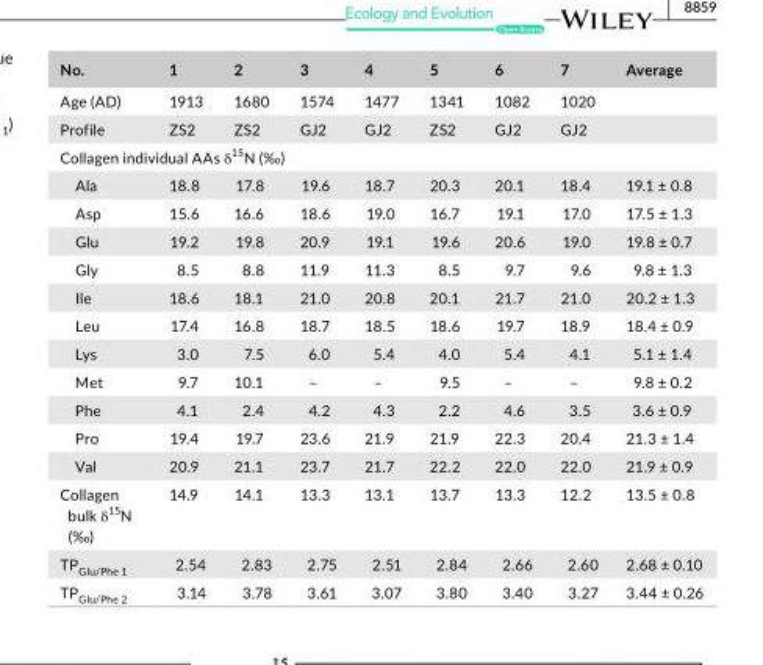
<table><thead><tr><td>No.</td><td>1</td><td>2</td><td>3</td><td>4</td><td>5</td><td>6</td><td>7</td><td>Average</td></tr></thead><tbody><tr><td>Age (AD)</td><td>1913</td><td>1680</td><td>1574</td><td>1477</td><td>1341</td><td>1082</td><td>1020</td><td></td></tr><tr><td>Profile</td><td>ZS2</td><td>ZS2</td><td>GJ2</td><td>GJ2</td><td>ZS2</td><td>GJ2</td><td>GJ2</td><td></td></tr><tr><td colspan="9">Collagen individual AAs δ<sup>15</sup>N (‰)</td></tr><tr><td>Ala</td><td>18.8</td><td>17.8</td><td>19.6</td><td>18.7</td><td>20.3</td><td>20.1</td><td>18.4</td><td>19.1 ± 0.8</td></tr><tr><td>Asp</td><td>15.6</td><td>16.6</td><td>18.6</td><td>19.0</td><td>16.7</td><td>19.1</td><td>17.0</td><td>17.5 ± 1.3</td></tr><tr><td>Glu</td><td>19.2</td><td>19.8</td><td>20.9</td><td>19.1</td><td>19.6</td><td>20.6</td><td>19.0</td><td>19.8 ± 0.7</td></tr><tr><td>Gly</td><td>8.5</td><td>8.8</td><td>11.9</td><td>11.3</td><td>8.5</td><td>9.7</td><td>9.6</td><td>9.8 ± 1.3</td></tr><tr><td>Ile</td><td>18.6</td><td>18.1</td><td>21.0</td><td>20.8</td><td>20.1</td><td>21.7</td><td>21.0</td><td>20.2 ± 1.3</td></tr><tr><td>Leu</td><td>17.4</td><td>16.8</td><td>18.7</td><td>18.5</td><td>18.6</td><td>19.7</td><td>18.9</td><td>18.4 ± 0.9</td></tr><tr><td>Lys</td><td>3.0</td><td>7.5</td><td>6.0</td><td>5.4</td><td>4.0</td><td>5.4</td><td>4.1</td><td>5.1 ± 1.4</td></tr><tr><td>Met</td><td>9.7</td><td>10.1</td><td>–</td><td>–</td><td>9.5</td><td>–</td><td>–</td><td>9.8 ± 0.2</td></tr><tr><td>Phe</td><td>4.1</td><td>2.4</td><td>4.2</td><td>4.3</td><td>2.2</td><td>4.6</td><td>3.5</td><td>3.6 ± 0.9</td></tr><tr><td>Pro</td><td>19.4</td><td>19.7</td><td>23.6</td><td>21.9</td><td>21.9</td><td>22.3</td><td>20.4</td><td>21.3 ± 1.4</td></tr><tr><td>Val</td><td>20.9</td><td>21.1</td><td>23.7</td><td>21.7</td><td>22.2</td><td>22.0</td><td>22.0</td><td>21.9 ± 0.9</td></tr><tr><td>Collagen bulk δ<sup>15</sup>N (‰)</td><td>14.9</td><td>14.1</td><td>13.3</td><td>13.1</td><td>13.7</td><td>13.3</td><td>12.2</td><td>13.5 ± 0.8</td></tr><tr><td>TP<sub>Glu/Phe 1</sub></td><td>2.54</td><td>2.83</td><td>2.75</td><td>2.51</td><td>2.84</td><td>2.66</td><td>2.60</td><td>2.68 ± 0.10</td></tr><tr><td>TP<sub>Glu/Phe 2</sub></td><td>3.14</td><td>3.78</td><td>3.61</td><td>3.07</td><td>3.80</td><td>3.40</td><td>3.27</td><td>3.44 ± 0.26</td></tr></tbody></table>